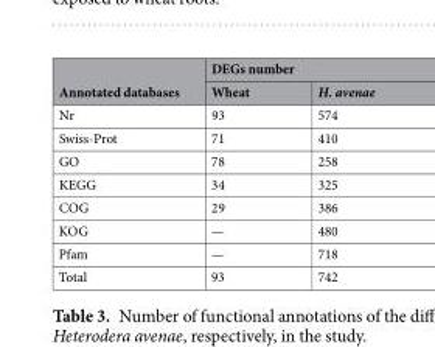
<table><thead><tr><td rowspan="2">Annotated databases</td><td colspan="2">DEGs number</td></tr><tr><td>Wheat</td><td>H. avenae</td></tr></thead><tbody><tr><td>Nr</td><td>93</td><td>574</td></tr><tr><td>Swiss-Prot</td><td>71</td><td>410</td></tr><tr><td>GO</td><td>78</td><td>258</td></tr><tr><td>KEGG</td><td>34</td><td>325</td></tr><tr><td>COG</td><td>29</td><td>386</td></tr><tr><td>KOG</td><td>—</td><td>480</td></tr><tr><td>Pfam</td><td>—</td><td>718</td></tr><tr><td>Total</td><td>93</td><td>742</td></tr></tbody></table>